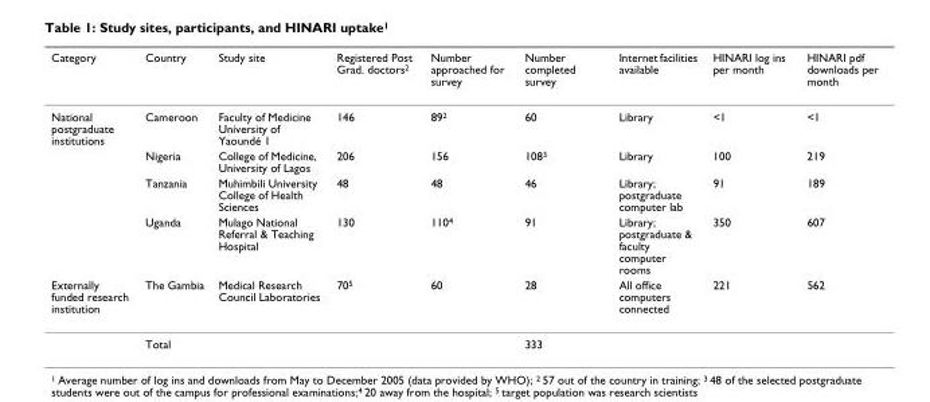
<table><thead><tr><td>Category</td><td>Country</td><td>Study site</td><td>Registered Post Grad. doctors<sup>2</sup></td><td>Number approached for survey</td><td>Number completed survey</td><td>Internet facilities available</td><td>HINARI log ins per month</td><td>HINARI pdf downloads per month</td></tr></thead><tbody><tr><td rowspan="4">National postgraduate institutions</td><td>Cameroon</td><td>Faculty of Medicine University of Yaoundé 1</td><td>146</td><td>89<sup>2</sup></td><td>60</td><td>Library</td><td>&lt;1</td><td>&lt;1</td></tr><tr><td>Nigeria</td><td>College of Medicine, University of Lagos</td><td>206</td><td>156</td><td>108<sup>3</sup></td><td>Library</td><td>100</td><td>219</td></tr><tr><td>Tanzania</td><td>Muhimbili University College of Health Sciences</td><td>48</td><td>48</td><td>46</td><td>Library; postgraduate computer lab</td><td>91</td><td>189</td></tr><tr><td>Uganda</td><td>Mulago National Referral &amp; Teaching Hospital</td><td>130</td><td>110<sup>4</sup></td><td>91</td><td>Library; postgraduate &amp; faculty computer rooms</td><td>350</td><td>607</td></tr><tr><td rowspan="2">Externally funded research institution</td><td>The Gambia</td><td>Medical Research Council Laboratories</td><td>70<sup>5</sup></td><td>60</td><td>28</td><td>All office computers connected</td><td>221</td><td>562</td></tr><tr><td>Total</td><td></td><td></td><td></td><td>333</td><td></td><td></td><td></td></tr></tbody></table>